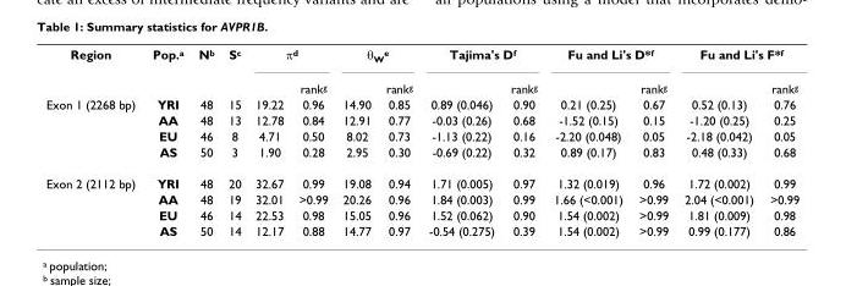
<table><tbody><tr><td rowspan="2">Region</td><td>Pop.<sup>a</sup></td><td>N<sup>b</sup></td><td>S<sup>c</sup></td><td colspan="2">π<sup>d</sup></td><td colspan="2">θ<sub>W</sub><sup>e</sup></td><td colspan="2">Tajima&#x27;s D<sup>f</sup></td><td colspan="2">Fu and Li&#x27;s D*<sup>f</sup></td><td colspan="2">Fu and Li&#x27;s F*<sup>f</sup></td></tr><tr><td></td><td></td><td></td><td></td><td>rank<sup>g</sup></td><td></td><td>rank<sup>g</sup></td><td></td><td>rank<sup>g</sup></td><td></td><td>rank<sup>g</sup></td><td></td><td>rank<sup>g</sup></td></tr><tr><td rowspan="4">Exon 1 (2268 bp)</td><td>YRI</td><td>48</td><td>15</td><td>19.22</td><td>0.96</td><td>14.90</td><td>0.85</td><td>0.89 (0.046)</td><td>0.90</td><td>0.21 (0.25)</td><td>0.67</td><td>0.52 (0.13)</td><td>0.76</td></tr><tr><td>AA</td><td>48</td><td>13</td><td>12.78</td><td>0.84</td><td>12.91</td><td>0.77</td><td>-0.03 (0.26)</td><td>0.68</td><td>-1.52 (0.15)</td><td>0.15</td><td>-1.20 (0.25)</td><td>0.25</td></tr><tr><td>EU</td><td>46</td><td>8</td><td>4.71</td><td>0.50</td><td>8.02</td><td>0.73</td><td>-1.13 (0.22)</td><td>0.16</td><td>-2.20 (0.048)</td><td>0.05</td><td>-2.18 (0.042)</td><td>0.05</td></tr><tr><td>AS</td><td>50</td><td>3</td><td>1.90</td><td>0.28</td><td>2.95</td><td>0.30</td><td>-0.69 (0.22)</td><td>0.32</td><td>0.89 (0.17)</td><td>0.83</td><td>0.48 (0.33)</td><td>0.68</td></tr><tr><td rowspan="4">Exon 2 (2112 bp)</td><td>YRI</td><td>48</td><td>20</td><td>32.67</td><td>0.99</td><td>19.08</td><td>0.94</td><td>1.71 (0.005)</td><td>0.97</td><td>1.32 (0.019)</td><td>0.96</td><td>1.72 (0.002)</td><td>0.99</td></tr><tr><td>AA</td><td>48</td><td>19</td><td>32.01</td><td>&gt;0.99</td><td>20.26</td><td>0.96</td><td>1.84 (0.003)</td><td>0.99</td><td>1.66 (&lt;0.001)</td><td>&gt;0.99</td><td>2.04 (&lt;0.001)</td><td>&gt;0.99</td></tr><tr><td>EU</td><td>46</td><td>14</td><td>22.53</td><td>0.98</td><td>15.05</td><td>0.96</td><td>1.52 (0.062)</td><td>0.90</td><td>1.54 (0.002)</td><td>&gt;0.99</td><td>1.81 (0.009)</td><td>0.98</td></tr><tr><td>AS</td><td>50</td><td>14</td><td>12.17</td><td>0.88</td><td>14.77</td><td>0.97</td><td>-0.54 (0.275)</td><td>0.39</td><td>1.54 (0.002)</td><td>&gt;0.99</td><td>0.99 (0.177)</td><td>0.86</td></tr></tbody></table>